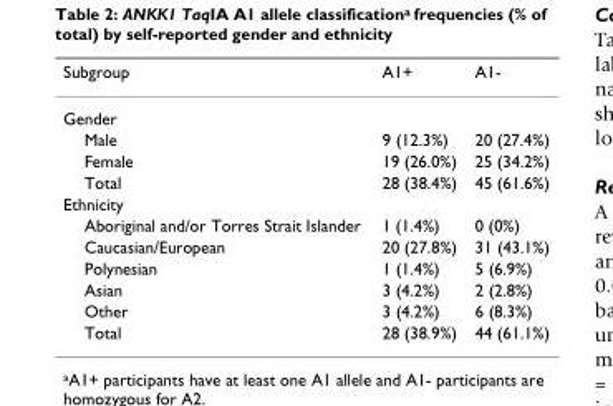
<table><thead><tr><td>Subgroup</td><td>A1+</td><td>A1-</td></tr></thead><tbody><tr><td colspan="3">Gender</td></tr><tr><td>Male</td><td>9 (12.3%)</td><td>20 (27.4%)</td></tr><tr><td>Female</td><td>19 (26.0%)</td><td>25 (34.2%)</td></tr><tr><td>Total</td><td>28 (38.4%)</td><td>45 (61.6%)</td></tr><tr><td colspan="3">Ethnicity</td></tr><tr><td>Aboriginal and/or Torres Strait Islander</td><td>1 (1.4%)</td><td>0 (0%)</td></tr><tr><td>Caucasian/European</td><td>20 (27.8%)</td><td>31 (43.1%)</td></tr><tr><td>Polynesian</td><td>1 (1.4%)</td><td>5 (6.9%)</td></tr><tr><td>Asian</td><td>3 (4.2%)</td><td>2 (2.8%)</td></tr><tr><td>Other</td><td>3 (4.2%)</td><td>6 (8.3%)</td></tr><tr><td>Total</td><td>28 (38.9%)</td><td>44 (61.1%)</td></tr></tbody></table>